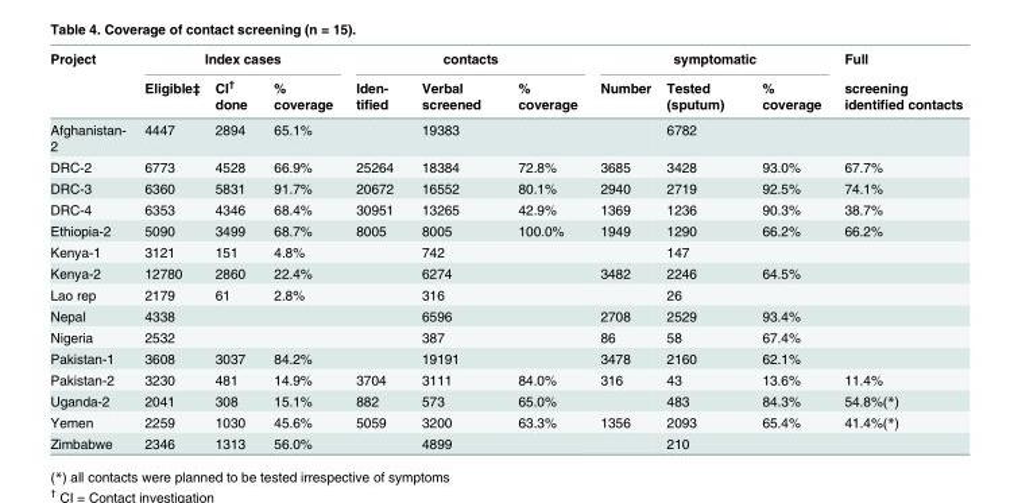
<table><thead><tr><td rowspan="2">Project</td><td colspan="3">Index cases</td><td colspan="3">contacts</td><td colspan="3">symptomatic</td><td rowspan="2">Full screening identified contacts</td></tr><tr><td>Eligible‡</td><td>CI<sup>†</sup> done</td><td>% coverage</td><td>Iden- tified</td><td>Verbal screened</td><td>% coverage</td><td>Number</td><td>Tested (sputum)</td><td>% coverage</td></tr></thead><tbody><tr><td>Afghanistan- 2</td><td>4447</td><td>2894</td><td>65.1%</td><td></td><td>19383</td><td></td><td></td><td>6782</td><td></td><td></td></tr><tr><td>DRC-2</td><td>6773</td><td>4528</td><td>66.9%</td><td>25264</td><td>18384</td><td>72.8%</td><td>3685</td><td>3428</td><td>93.0%</td><td>67.7%</td></tr><tr><td>DRC-3</td><td>6360</td><td>5831</td><td>91.7%</td><td>20672</td><td>16552</td><td>80.1%</td><td>2940</td><td>2719</td><td>92.5%</td><td>74.1%</td></tr><tr><td>DRC-4</td><td>6353</td><td>4346</td><td>68.4%</td><td>30951</td><td>13265</td><td>42.9%</td><td>1369</td><td>1236</td><td>90.3%</td><td>38.7%</td></tr><tr><td>Ethiopia-2</td><td>5090</td><td>3499</td><td>68.7%</td><td>8005</td><td>8005</td><td>100.0%</td><td>1949</td><td>1290</td><td>66.2%</td><td>66.2%</td></tr><tr><td>Kenya-1</td><td>3121</td><td>151</td><td>4.8%</td><td></td><td>742</td><td></td><td></td><td>147</td><td></td><td></td></tr><tr><td>Kenya-2</td><td>12780</td><td>2860</td><td>22.4%</td><td></td><td>6274</td><td></td><td>3482</td><td>2246</td><td>64.5%</td><td></td></tr><tr><td>Lao rep</td><td>2179</td><td>61</td><td>2.8%</td><td></td><td>316</td><td></td><td></td><td>26</td><td></td><td></td></tr><tr><td>Nepal</td><td>4338</td><td></td><td></td><td></td><td>6596</td><td></td><td>2708</td><td>2529</td><td>93.4%</td><td></td></tr><tr><td>Nigeria</td><td>2532</td><td></td><td></td><td></td><td>387</td><td></td><td>86</td><td>58</td><td>67.4%</td><td></td></tr><tr><td>Pakistan-1</td><td>3608</td><td>3037</td><td>84.2%</td><td></td><td>19191</td><td></td><td>3478</td><td>2160</td><td>62.1%</td><td></td></tr><tr><td>Pakistan-2</td><td>3230</td><td>481</td><td>14.9%</td><td>3704</td><td>3111</td><td>84.0%</td><td>316</td><td>43</td><td>13.6%</td><td>11.4%</td></tr><tr><td>Uganda-2</td><td>2041</td><td>308</td><td>15.1%</td><td>882</td><td>573</td><td>65.0%</td><td></td><td>483</td><td>84.3%</td><td>54.8%(*)</td></tr><tr><td>Yemen</td><td>2259</td><td>1030</td><td>45.6%</td><td>5059</td><td>3200</td><td>63.3%</td><td>1356</td><td>2093</td><td>65.4%</td><td>41.4%(*)</td></tr><tr><td>Zimbabwe</td><td>2346</td><td>1313</td><td>56.0%</td><td></td><td>4899</td><td></td><td></td><td>210</td><td></td><td></td></tr></tbody></table>